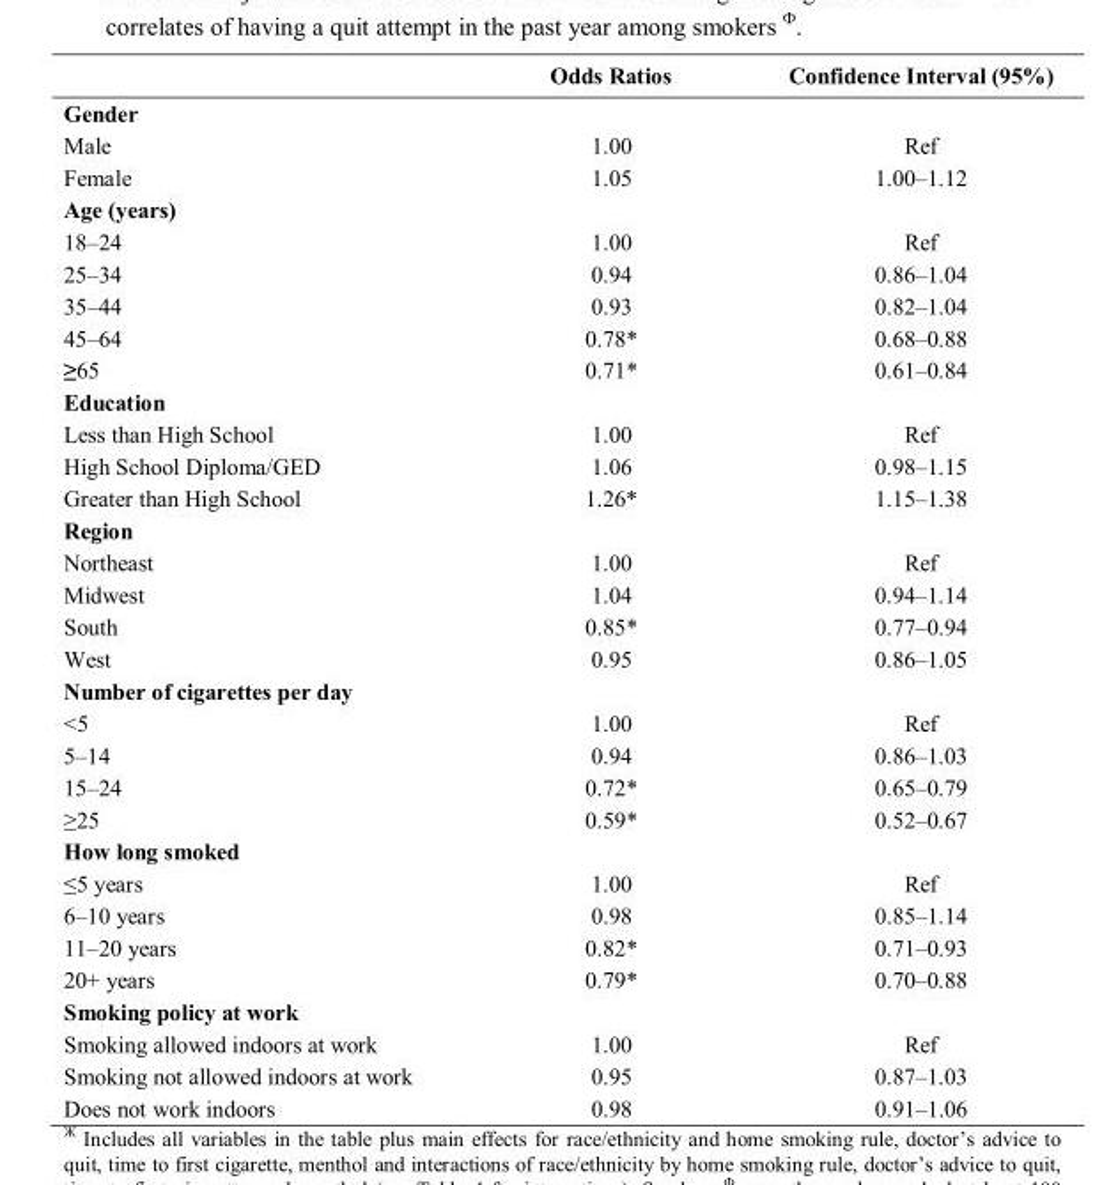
<table><thead><tr><td></td><td>Odds Ratios</td><td>Confidence Interval (95%)</td></tr></thead><tbody><tr><td colspan="3">Gender</td></tr><tr><td>Male</td><td>1.00</td><td>Ref</td></tr><tr><td>Female</td><td>1.05</td><td>1.00–1.12</td></tr><tr><td colspan="3">Age (years)</td></tr><tr><td>18–24</td><td>1.00</td><td>Ref</td></tr><tr><td>25–34</td><td>0.94</td><td>0.86–1.04</td></tr><tr><td>35–44</td><td>0.93</td><td>0.82–1.04</td></tr><tr><td>45–64</td><td>0.78*</td><td>0.68–0.88</td></tr><tr><td>≥65</td><td>0.71*</td><td>0.61–0.84</td></tr><tr><td colspan="3">Education</td></tr><tr><td>Less than High School</td><td>1.00</td><td>Ref</td></tr><tr><td>High School Diploma/GED</td><td>1.06</td><td>0.98–1.15</td></tr><tr><td>Greater than High School</td><td>1.26*</td><td>1.15–1.38</td></tr><tr><td colspan="3">Region</td></tr><tr><td>Northeast</td><td>1.00</td><td>Ref</td></tr><tr><td>Midwest</td><td>1.04</td><td>0.94–1.14</td></tr><tr><td>South</td><td>0.85*</td><td>0.77–0.94</td></tr><tr><td>West</td><td>0.95</td><td>0.86–1.05</td></tr><tr><td colspan="3">Number of cigarettes per day</td></tr><tr><td>&lt;5</td><td>1.00</td><td>Ref</td></tr><tr><td>5–14</td><td>0.94</td><td>0.86–1.03</td></tr><tr><td>15–24</td><td>0.72*</td><td>0.65–0.79</td></tr><tr><td>≥25</td><td>0.59*</td><td>0.52–0.67</td></tr><tr><td colspan="3">How long smoked</td></tr><tr><td>≤5 years</td><td>1.00</td><td>Ref</td></tr><tr><td>6–10 years</td><td>0.98</td><td>0.85–1.14</td></tr><tr><td>11–20 years</td><td>0.82*</td><td>0.71–0.93</td></tr><tr><td>20+ years</td><td>0.79*</td><td>0.70–0.88</td></tr><tr><td colspan="3">Smoking policy at work</td></tr><tr><td>Smoking allowed indoors at work</td><td>1.00</td><td>Ref</td></tr><tr><td>Smoking not allowed indoors at work</td><td>0.95</td><td>0.87–1.03</td></tr><tr><td>Does not work indoors</td><td>0.98</td><td>0.91–1.06</td></tr></tbody></table>